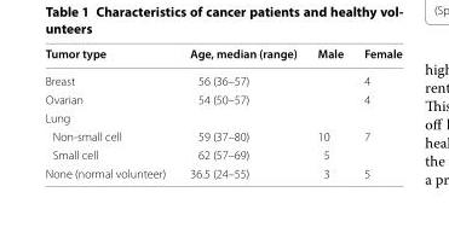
<table><thead><tr><td>Tumor type</td><td>Age, median (range)</td><td>Male</td><td>Female</td></tr></thead><tbody><tr><td>Breast</td><td>56 (36–57)</td><td></td><td>4</td></tr><tr><td>Ovarian</td><td>54 (50–57)</td><td></td><td>4</td></tr><tr><td colspan="4">Lung</td></tr><tr><td>Non-small cell</td><td>59 (37–80)</td><td>10</td><td>7</td></tr><tr><td>Small cell</td><td>62 (57–69)</td><td>5</td><td></td></tr><tr><td>None (normal volunteer)</td><td>36.5 (24–55)</td><td>3</td><td>5</td></tr></tbody></table>